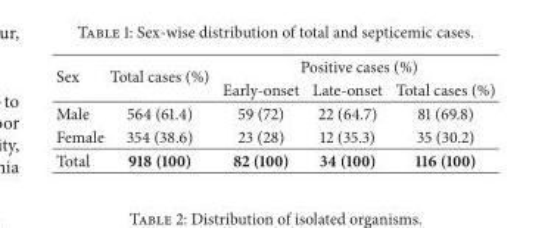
<table><thead><tr><td rowspan="2">Sex</td><td rowspan="2">Total cases (%)</td><td colspan="3">Positive cases (%)</td></tr><tr><td>Early-onset</td><td>Late-onset</td><td>Total cases (%)</td></tr></thead><tbody><tr><td>Male</td><td>564 (61.4)</td><td>59 (72)</td><td>22 (64.7)</td><td>81 (69.8)</td></tr><tr><td>Female</td><td>354 (38.6)</td><td>23 (28)</td><td>12 (35.3)</td><td>35 (30.2)</td></tr><tr><td>Total</td><td>918 (100)</td><td>82 (100)</td><td>34 (100)</td><td>116 (100)</td></tr></tbody></table>